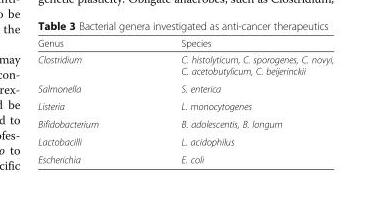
<table><thead><tr><td>Genus</td><td>Species</td></tr></thead><tbody><tr><td>Clostridium</td><td>C. histolyticum, C. sporogenes, C. novyi, C. acetobutylicum, C. beijerinckii</td></tr><tr><td>Salmonella</td><td>S. enterica</td></tr><tr><td>Listeria</td><td>L. monocytogenes</td></tr><tr><td>Bifidobacterium</td><td>B. adolescentis, B. longum</td></tr><tr><td>Lactobacilli</td><td>L. acidophilus</td></tr><tr><td>Escherichia</td><td>E. coli</td></tr></tbody></table>